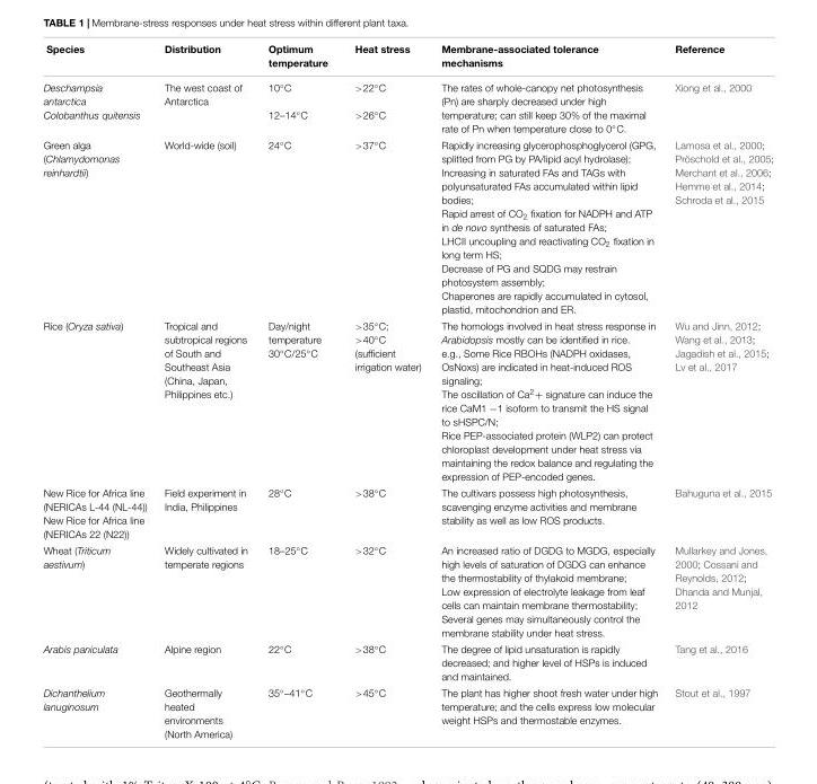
<table><thead><tr><td>Species</td><td>Distribution</td><td>Optimum temperature</td><td>Heat stress</td><td>Membrane-associated tolerance mechanisms</td><td>Reference</td></tr></thead><tbody><tr><td>Deschampsia antarctica Colobanthus quitensis</td><td>The west coast of Antarctica</td><td>10◦C 12–14◦C</td><td>&gt;22◦C &gt;26◦C</td><td>The rates of whole-canopy net photosynthesis (Pn) are sharply decreased under high temperature; can still keep 30% of the maximal rate of Pn when temperature close to 0◦C.</td><td>Xiong et al., 2000</td></tr><tr><td>Green alga (Chlamydomonas reinhardtii)</td><td>World-wide (soil)</td><td>24◦C</td><td>&gt;37◦C</td><td>Rapidly increasing glycerophosphoglycerol (GPG, splitted from PG by PA/lipid acyl hydrolase); Increasing in saturated FAs and TAGs with polyunsaturated FAs accumulated within lipid bodies; Rapid arrest of CO<sub>2</sub> fixation for NADPH and ATP in de novo synthesis of saturated FAs; LHCII uncoupling and reactivating CO<sub>2</sub> fixation in long term HS; Decrease of PG and SQDG may restrain photosystem assembly; Chaperones are rapidly accumulated in cytosol, plastid, mitochondrion and ER.</td><td>Lamosa et al., 2000; Pröschold et al., 2005; Merchant et al., 2006; Hemme et al., 2014; Schroda et al., 2015</td></tr><tr><td>Rice (Oryza sativa)</td><td>Tropical and subtropical regions of South and Southeast Asia (China, Japan, Philippines etc.)</td><td>Day/night temperature 30◦C/25◦C</td><td>&gt;35◦C; &gt;40◦C (sufficient irrigation water)</td><td>The homologs involved in heat stress response in Arabidopsis mostly can be identified in rice. e.g., Some Rice RBOHs (NADPH oxidases, OsNoxs) are indicated in heat-induced ROS signaling; The oscillation of Ca<sup>2</sup>+ signature can induce the rice CaM1 −1 isoform to transmit the HS signal to sHSPC/N; Rice PEP-associated protein (WLP2) can protect chloroplast development under heat stress via maintaining the redox balance and regulating the expression of PEP-encoded genes.</td><td>Wu and Jinn, 2012; Wang et al., 2013; Jagadish et al., 2015; Lv et al., 2017</td></tr><tr><td>New Rice for Africa line (NERICAs L-44 (NL-44)) New Rice for Africa line (NERICAs 22 (N22))</td><td>Field experiment in India, Philippines</td><td>28◦C</td><td>&gt;38◦C</td><td>The cultivars possess high photosynthesis, scavenging enzyme activities and membrane stability as well as low ROS products.</td><td>Bahuguna et al., 2015</td></tr><tr><td>Wheat (Triticum aestivum)</td><td>Widely cultivated in temperate regions</td><td>18–25◦C</td><td>&gt;32◦C</td><td>An increased ratio of DGDG to MGDG, especially high levels of saturation of DGDG can enhance the thermostability of thylakoid membrane; Low expression of electrolyte leakage from leaf cells can maintain membrane thermostability; Several genes may simultaneously control the membrane stability under heat stress.</td><td>Mullarkey and Jones, 2000; Cossani and Reynolds, 2012; Dhanda and Munjal, 2012</td></tr><tr><td>Arabis paniculata</td><td>Alpine region</td><td>22◦C</td><td>&gt;38◦C</td><td>The degree of lipid unsaturation is rapidly decreased; and higher level of HSPs is induced and maintained.</td><td>Tang et al., 2016</td></tr><tr><td>Dichanthelium lanuginosum</td><td>Geothermally heated environments (North America)</td><td>35◦–41◦C</td><td>&gt;45◦C</td><td>The plant has higher shoot fresh water under high temperature; and the cells express low molecular weight HSPs and thermostable enzymes.</td><td>Stout et al., 1997</td></tr></tbody></table>